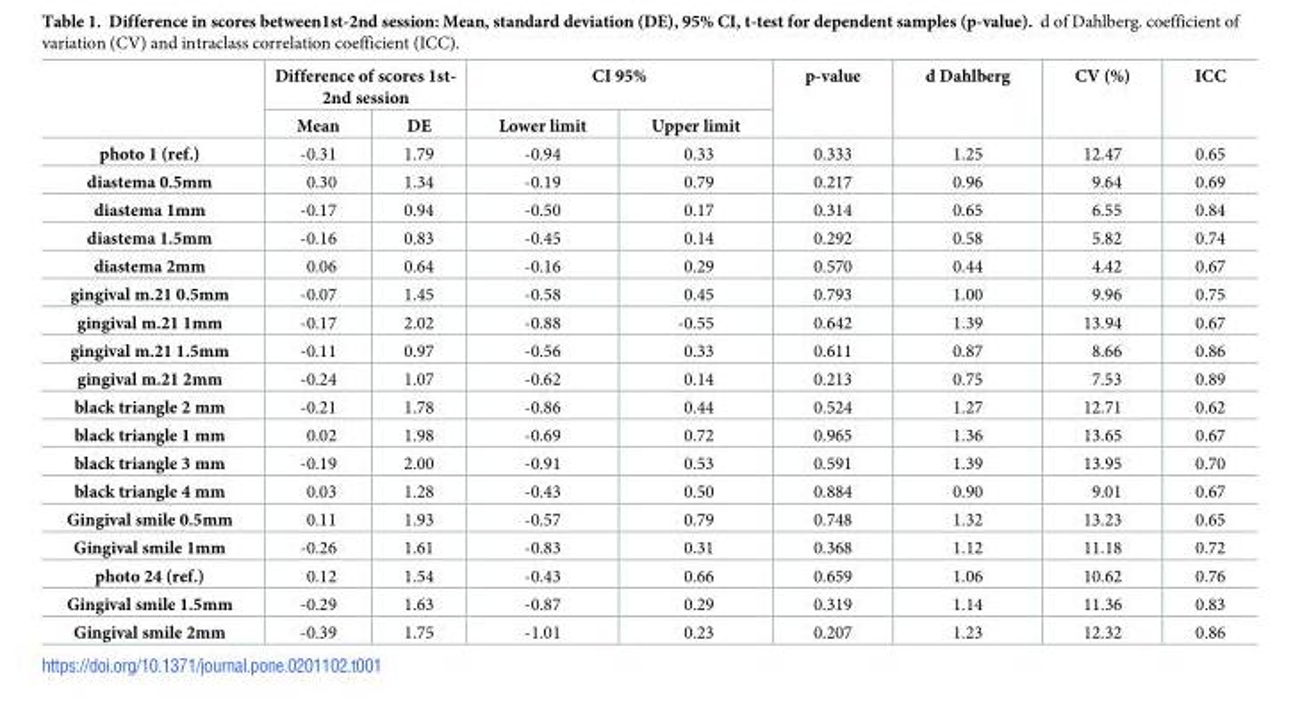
<table><thead><tr><td rowspan="2"></td><td colspan="2">Difference of scores 1st- 2nd session</td><td colspan="2">CI 95%</td><td rowspan="2">p-value</td><td rowspan="2">d Dahlberg</td><td rowspan="2">CV (%)</td><td rowspan="2">ICC</td></tr><tr><td>Mean</td><td>DE</td><td>Lower limit</td><td>Upper limit</td></tr></thead><tbody><tr><td>photo 1 (ref.)</td><td>-0.31</td><td>1.79</td><td>-0.94</td><td>0.33</td><td>0.333</td><td>1.25</td><td>12.47</td><td>0.65</td></tr><tr><td>diastema 0.5mm</td><td>0.30</td><td>1.34</td><td>-0.19</td><td>0.79</td><td>0.217</td><td>0.96</td><td>9.64</td><td>0.69</td></tr><tr><td>diastema 1mm</td><td>-0.17</td><td>0.94</td><td>-0.50</td><td>0.17</td><td>0.314</td><td>0.65</td><td>6.55</td><td>0.84</td></tr><tr><td>diastema 1.5mm</td><td>-0.16</td><td>0.83</td><td>-0.45</td><td>0.14</td><td>0.292</td><td>0.58</td><td>5.82</td><td>0.74</td></tr><tr><td>diastema 2mm</td><td>0.06</td><td>0.64</td><td>-0.16</td><td>0.29</td><td>0.570</td><td>0.44</td><td>4.42</td><td>0.67</td></tr><tr><td>gingival m.21 0.5mm</td><td>-0.07</td><td>1.45</td><td>-0.58</td><td>0.45</td><td>0.793</td><td>1.00</td><td>9.96</td><td>0.75</td></tr><tr><td>gingival m.21 1mm</td><td>-0.17</td><td>2.02</td><td>-0.88</td><td>-0.55</td><td>0.642</td><td>1.39</td><td>13.94</td><td>0.67</td></tr><tr><td>gingival m.21 1.5mm</td><td>-0.11</td><td>0.97</td><td>-0.56</td><td>0.33</td><td>0.611</td><td>0.87</td><td>8.66</td><td>0.86</td></tr><tr><td>gingival m.21 2mm</td><td>-0.24</td><td>1.07</td><td>-0.62</td><td>0.14</td><td>0.213</td><td>0.75</td><td>7.53</td><td>0.89</td></tr><tr><td>black triangle 2 mm</td><td>-0.21</td><td>1.78</td><td>-0.86</td><td>0.44</td><td>0.524</td><td>1.27</td><td>12.71</td><td>0.62</td></tr><tr><td>black triangle 1 mm</td><td>0.02</td><td>1.98</td><td>-0.69</td><td>0.72</td><td>0.965</td><td>1.36</td><td>13.65</td><td>0.67</td></tr><tr><td>black triangle 3 mm</td><td>-0.19</td><td>2.00</td><td>-0.91</td><td>0.53</td><td>0.591</td><td>1.39</td><td>13.95</td><td>0.70</td></tr><tr><td>black triangle 4 mm</td><td>0.03</td><td>1.28</td><td>-0.43</td><td>0.50</td><td>0.884</td><td>0.90</td><td>9.01</td><td>0.67</td></tr><tr><td>Gingival smile 0.5mm</td><td>0.11</td><td>1.93</td><td>-0.57</td><td>0.79</td><td>0.748</td><td>1.32</td><td>13.23</td><td>0.65</td></tr><tr><td>Gingival smile 1mm</td><td>-0.26</td><td>1.61</td><td>-0.83</td><td>0.31</td><td>0.368</td><td>1.12</td><td>11.18</td><td>0.72</td></tr><tr><td>photo 24 (ref.)</td><td>0.12</td><td>1.54</td><td>-0.43</td><td>0.66</td><td>0.659</td><td>1.06</td><td>10.62</td><td>0.76</td></tr><tr><td>Gingival smile 1.5mm</td><td>-0.29</td><td>1.63</td><td>-0.87</td><td>0.29</td><td>0.319</td><td>1.14</td><td>11.36</td><td>0.83</td></tr><tr><td>Gingival smile 2mm</td><td>-0.39</td><td>1.75</td><td>-1.01</td><td>0.23</td><td>0.207</td><td>1.23</td><td>12.32</td><td>0.86</td></tr></tbody></table>